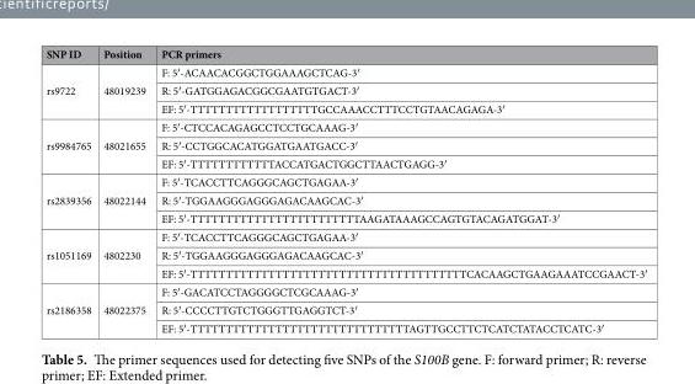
<table><thead><tr><td>SNP ID</td><td>Position</td><td>PCR primers</td></tr></thead><tbody><tr><td rowspan="3">rs9722</td><td rowspan="3">48019239</td><td>F: 5′-ACAACACGGCTGGAAAGCTCAG-3′</td></tr><tr><td>R: 5′-GATGGAGACGGCGAATGTGACT-3′</td></tr><tr><td>EF: 5′-TTTTTTTTTTTTTTTTTTGCCAAACCTTTCCTGTAACAGAGA-3′</td></tr><tr><td rowspan="3">rs9984765</td><td rowspan="3">48021655</td><td>F: 5′-CTCCACAGAGCCTCCTGCAAAG-3′</td></tr><tr><td>R: 5′-CCTGGCACATGGATGAATGACC-3′</td></tr><tr><td>EF: 5′-TTTTTTTTTTTTACCATGACTGGCTTAACTGAGG-3′</td></tr><tr><td rowspan="3">rs2839356</td><td rowspan="3">48022144</td><td>F: 5′-TCACCTTCAGGGCAGCTGAGAA-3′</td></tr><tr><td>R: 5′-TGGAAGGGAGGGAGACAAGCAC-3′</td></tr><tr><td>EF: 5′-TTTTTTTTTTTTTTTTTTTTTTTTAAGATAAAGCCAGTGTACAGATGGAT-3′</td></tr><tr><td rowspan="3">rs1051169</td><td rowspan="3">4802230</td><td>F: 5′-TCACCTTCAGGGCAGCTGAGAA-3′</td></tr><tr><td>R: 5′-TGGAAGGGAGGGAGACAAGCAC-3′</td></tr><tr><td>EF: 5′-TTTTTTTTTTTTTTTTTTTTTTTTTTTTTTTTTTTTTTTCACAAGCTGAAGAAATCCGAACT-3′</td></tr><tr><td rowspan="3">rs2186358</td><td rowspan="3">48022375</td><td>F: 5′-GACATCCTAGGGGCTCGCAAAG-3′</td></tr><tr><td>R: 5′-CCCCTTGTCTGGGTTGAGGTCT-3′</td></tr><tr><td>EF: 5′-TTTTTTTTTTTTTTTTTTTTTTTTTTTTTTTAGTTGCCTTCTCATCTATACCTCATC-3′</td></tr></tbody></table>